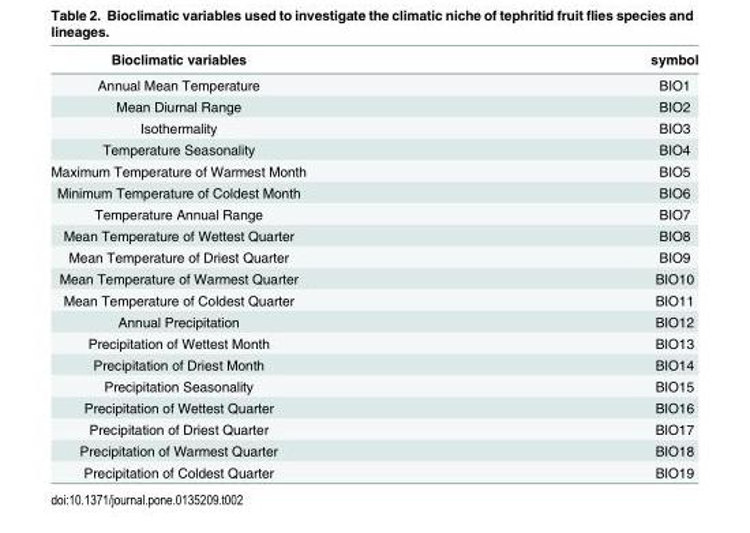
<table><thead><tr><td>Bioclimatic variables</td><td>symbol</td></tr></thead><tbody><tr><td>Annual Mean Temperature</td><td>BIO1</td></tr><tr><td>Mean Diurnal Range</td><td>BIO2</td></tr><tr><td>Isothermality</td><td>BIO3</td></tr><tr><td>Temperature Seasonality</td><td>BIO4</td></tr><tr><td>Maximum Temperature of Warmest Month</td><td>BIO5</td></tr><tr><td>Minimum Temperature of Coldest Month</td><td>BIO6</td></tr><tr><td>Temperature Annual Range</td><td>BIO7</td></tr><tr><td>Mean Temperature of Wettest Quarter</td><td>BIO8</td></tr><tr><td>Mean Temperature of Driest Quarter</td><td>BIO9</td></tr><tr><td>Mean Temperature of Warmest Quarter</td><td>BIO10</td></tr><tr><td>Mean Temperature of Coldest Quarter</td><td>BIO11</td></tr><tr><td>Annual Precipitation</td><td>BIO12</td></tr><tr><td>Precipitation of Wettest Month</td><td>BIO13</td></tr><tr><td>Precipitation of Driest Month</td><td>BIO14</td></tr><tr><td>Precipitation Seasonality</td><td>BIO15</td></tr><tr><td>Precipitation of Wettest Quarter</td><td>BIO16</td></tr><tr><td>Precipitation of Driest Quarter</td><td>BIO17</td></tr><tr><td>Precipitation of Warmest Quarter</td><td>BIO18</td></tr><tr><td>Precipitation of Coldest Quarter</td><td>BIO19</td></tr></tbody></table>